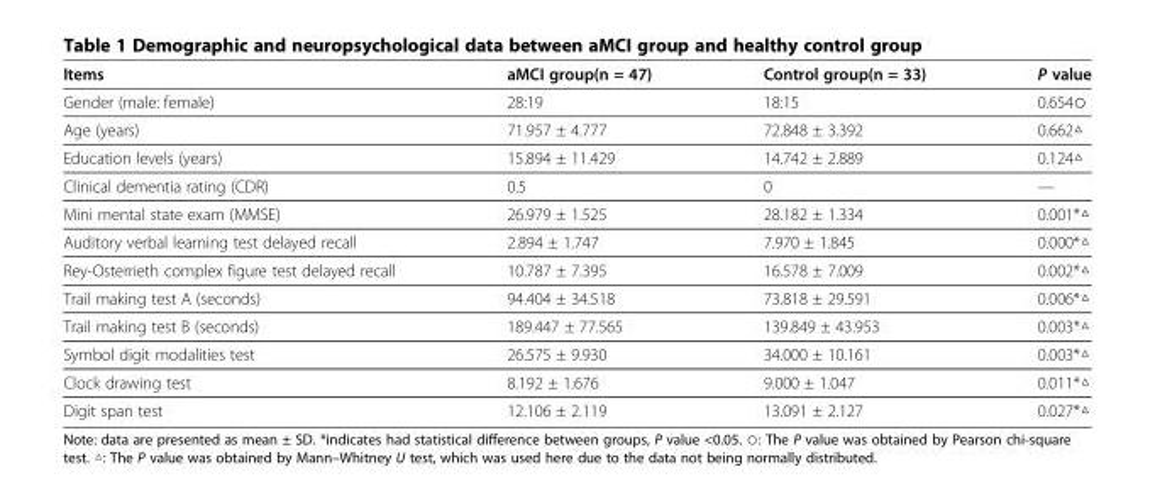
<table><thead><tr><td>Items</td><td>aMCI group(n = 47)</td><td>Control group(n = 33)</td><td>P value</td></tr></thead><tbody><tr><td>Gender (male: female)</td><td>28:19</td><td>18:15</td><td>0.654○</td></tr><tr><td>Age (years)</td><td>71.957 ± 4.777</td><td>72.848 ± 3.392</td><td>0.662△</td></tr><tr><td>Education levels (years)</td><td>15.894 ± 11.429</td><td>14.742 ± 2.889</td><td>0.124△</td></tr><tr><td>Clinical dementia rating (CDR)</td><td>0.5</td><td>0</td><td>—</td></tr><tr><td>Mini mental state exam (MMSE)</td><td>26.979 ± 1.525</td><td>28.182 ± 1.334</td><td>0.001*△</td></tr><tr><td>Auditory verbal learning test delayed recall</td><td>2.894 ± 1.747</td><td>7.970 ± 1.845</td><td>0.000*△</td></tr><tr><td>Rey-Osterrieth complex figure test delayed recall</td><td>10.787 ± 7.395</td><td>16.578 ± 7.009</td><td>0.002*△</td></tr><tr><td>Trail making test A (seconds)</td><td>94.404 ± 34.518</td><td>73.818 ± 29.591</td><td>0.006*△</td></tr><tr><td>Trail making test B (seconds)</td><td>189.447 ± 77.565</td><td>139.849 ± 43.953</td><td>0.003*△</td></tr><tr><td>Symbol digit modalities test</td><td>26.575 ± 9.930</td><td>34.000 ± 10.161</td><td>0.003*△</td></tr><tr><td>Clock drawing test</td><td>8.192 ± 1.676</td><td>9.000 ± 1.047</td><td>0.011*△</td></tr><tr><td>Digit span test</td><td>12.106 ± 2.119</td><td>13.091 ± 2.127</td><td>0.027*△</td></tr></tbody></table>